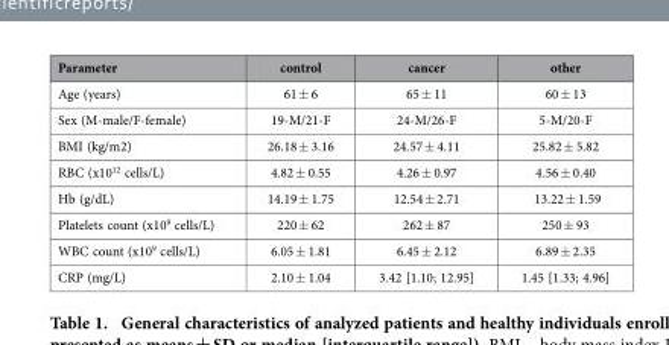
<table><thead><tr><td>Parameter</td><td>control</td><td>cancer</td><td>other</td></tr></thead><tbody><tr><td>Age (years)</td><td>61 ± 6</td><td>65 ± 11</td><td>60 ± 13</td></tr><tr><td>Sex (M-male/F-female)</td><td>19-M/21-F</td><td>24-M/26-F</td><td>5-M/20-F</td></tr><tr><td>BMI (kg/m2)</td><td>26.18 ± 3.16</td><td>24.57 ± 4.11</td><td>25.82 ± 5.82</td></tr><tr><td>RBC (x10<sup>12</sup> cells/L)</td><td>4.82 ± 0.55</td><td>4.26 ± 0.97</td><td>4.56 ± 0.40</td></tr><tr><td>Hb (g/dL)</td><td>14.19 ± 1.75</td><td>12.54 ± 2.71</td><td>13.22 ± 1.59</td></tr><tr><td>Platelets count (x10<sup>9</sup> cells/L)</td><td>220 ± 62</td><td>262 ± 87</td><td>250 ± 93</td></tr><tr><td>WBC count (x10<sup>9</sup> cells/L)</td><td>6.05 ± 1.81</td><td>6.45 ± 2.12</td><td>6.89 ± 2.35</td></tr><tr><td>CRP (mg/L)</td><td>2.10 ± 1.04</td><td>3.42 [1.10; 12.95]</td><td>1.45 [1.33; 4.96]</td></tr></tbody></table>